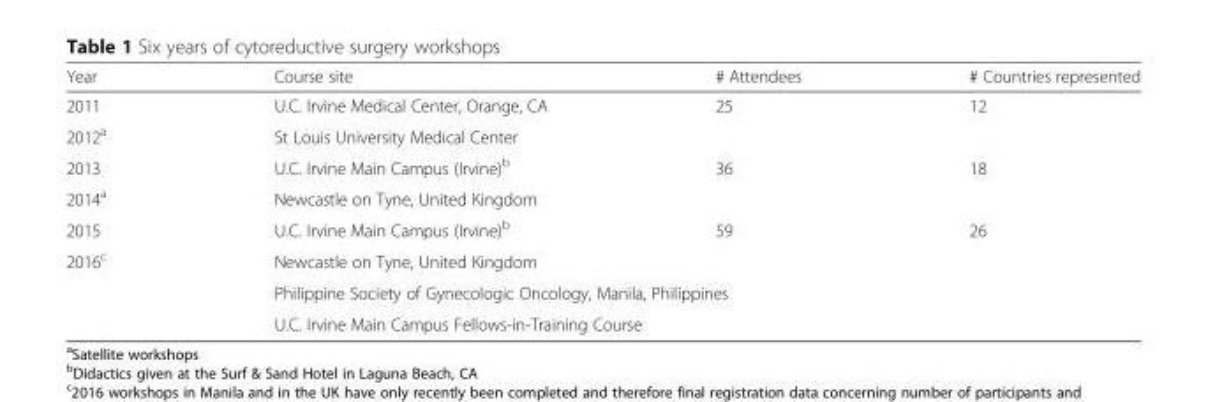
<table><thead><tr><td>Year</td><td>Course site</td><td># Attendees</td><td># Countries represented</td></tr></thead><tbody><tr><td>2011</td><td>U.C. Irvine Medical Center, Orange, CA</td><td>25</td><td>12</td></tr><tr><td>2012<sup>a</sup></td><td colspan="3">St Louis University Medical Center</td></tr><tr><td>2013</td><td>U.C. Irvine Main Campus (Irvine)<sup>b</sup></td><td>36</td><td>18</td></tr><tr><td>2014<sup>a</sup></td><td colspan="3">Newcastle on Tyne, United Kingdom</td></tr><tr><td>2015</td><td>U.C. Irvine Main Campus (Irvine)<sup>b</sup></td><td>59</td><td>26</td></tr><tr><td rowspan="3">2016<sup>c</sup></td><td colspan="3">Newcastle on Tyne, United Kingdom</td></tr><tr><td colspan="3">Philippine Society of Gynecologic Oncology, Manila, Philippines</td></tr><tr><td colspan="3">U.C. Irvine Main Campus Fellows-in-Training Course</td></tr></tbody></table>